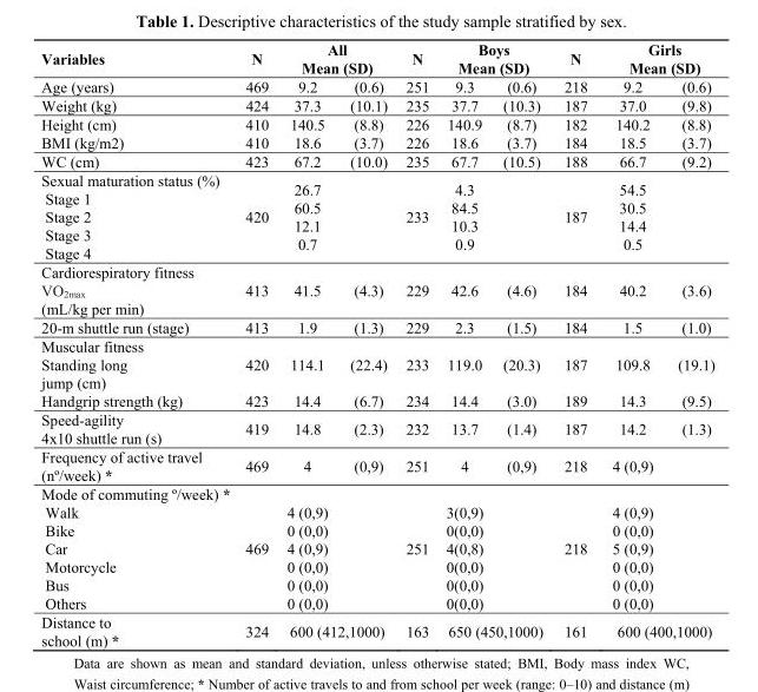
<table><thead><tr><td rowspan="2">Variables Age (years)</td><td rowspan="2">N 469</td><td colspan="2">All Mean (SD)</td><td rowspan="2">N 251</td><td colspan="2">Boys Mean (SD)</td><td rowspan="2">N 218</td><td colspan="2">Girls Mean (SD)</td></tr><tr><td>9.2</td><td>(0.6)</td><td>9.3</td><td>(0.6)</td><td>9.2</td><td>(0.6)</td></tr></thead><tbody><tr><td>Weight (kg)</td><td>424</td><td>37.3</td><td>(10.1)</td><td>235</td><td>37.7</td><td>(10.3)</td><td>187</td><td>37.0</td><td>(9.8)</td></tr><tr><td>Height (cm) BMI (kg/m2)</td><td>410 410</td><td>140.5 18.6</td><td>(8.8) (3.7)</td><td>226 226</td><td>140.9 18.6</td><td>(8.7) (3.7)</td><td>182 184</td><td>140.2 18.5</td><td>(8.8) (3.7)</td></tr><tr><td>WC (cm)</td><td>423</td><td>67.2</td><td>(10.0)</td><td>235</td><td>67.7</td><td>(10.5)</td><td>188</td><td>66.7</td><td>(9.2)</td></tr><tr><td>Sexual maturation status (%) Stage 1 Stage 2 Stage 3 Stage 4</td><td>420</td><td>26.7 60.5 12.1 0.7</td><td></td><td>233</td><td>4.3 84.5 10.3 0.9</td><td></td><td>187</td><td>54.5 30.5 14.4 0.5</td><td></td></tr><tr><td>Cardiorespiratory fitness VO<sub>2max</sub> (mL/kg per min)</td><td>413</td><td>41.5</td><td>(4.3)</td><td>229</td><td>42.6</td><td>(4.6)</td><td>184</td><td>40.2</td><td>(3.6)</td></tr><tr><td>20-m shuttle run (stage)</td><td>413</td><td>1.9</td><td>(1.3)</td><td>229</td><td>2.3</td><td>(1.5)</td><td>184</td><td>1.5</td><td>(1.0)</td></tr><tr><td>Muscular fitness Standing long jump (cm) Handgrip strength (kg)</td><td>420 423</td><td>114.1 14.4</td><td>(22.4) (6.7)</td><td>233 234</td><td>119.0 14.4</td><td>(20.3) (3.0)</td><td>187 189</td><td>109.8 14.3</td><td>(19.1) (9.5)</td></tr><tr><td>Speed-agility 4x10 shuttle run (s)</td><td>419</td><td>14.8</td><td>(2.3)</td><td>232</td><td>13.7</td><td>(1.4)</td><td>187</td><td>14.2</td><td>(1.3)</td></tr><tr><td>Frequency of active travel (nº/week) *</td><td>469</td><td>4</td><td>(0,9)</td><td>251</td><td>4</td><td>(0,9)</td><td>218</td><td>4 (0,9)</td><td></td></tr><tr><td>Mode of commuting º/week) * Walk Bike Car Motorcycle Bus Others</td><td>469</td><td>4 (0,9) 0 (0,0) 4 (0,9) 0 (0,0) 0 (0,0) 0 (0,0)</td><td></td><td>251</td><td>3(0,9) 0(0,0) 4(0,8) 0(0,0) 0(0,0) 0(0,0)</td><td></td><td>218</td><td>4 (0,9) 0 (0,0) 5 (0,9) 0 (0,0) 0 (0,0) 0 (0,0)</td><td></td></tr><tr><td>Distance to school (m) *</td><td>324</td><td colspan="2">600 (412,1000)</td><td>163</td><td colspan="2">650 (450,1000)</td><td>161</td><td colspan="2">600 (400,1000)</td></tr></tbody></table>